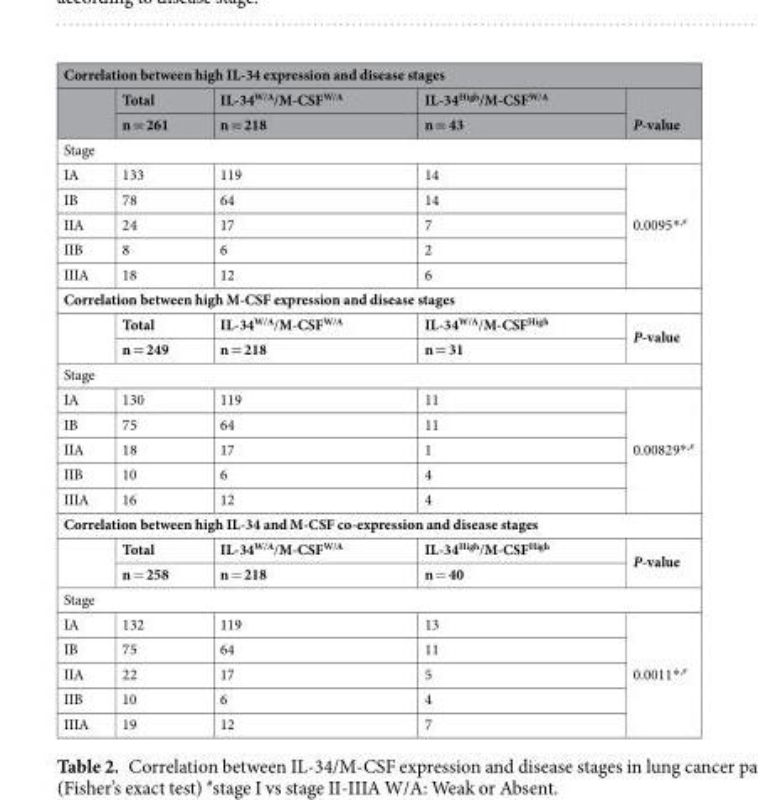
<table><thead><tr><td colspan="5">Correlation between high IL-34 expression and disease stages</td></tr><tr><td rowspan="2"></td><td rowspan="2">Total n = 261</td><td rowspan="2">IL-34W/A/M-CSFW/A n = 218</td><td rowspan="2">IL-34<sup>High</sup>/M-CSF<sup>W/A</sup> n = 43</td><td rowspan="2">P-value</td></tr><tr></tr></thead><tbody><tr><td colspan="5">Stage</td></tr><tr><td>IA</td><td>133</td><td>119</td><td>14</td><td rowspan="5">0.0095*<sup>,#</sup></td></tr><tr><td>IB</td><td>78</td><td>64</td><td>14</td></tr><tr><td>IIA</td><td>24</td><td>17</td><td>7</td></tr><tr><td>IIB</td><td>8</td><td>6</td><td>2</td></tr><tr><td>IIIA</td><td>18</td><td>12</td><td>6</td></tr><tr><td colspan="5">Correlation between high M-CSF expression and disease stages</td></tr><tr><td rowspan="2"></td><td>Total</td><td>IL-34W/A/M-CSFW/A</td><td>IL-34<sup>W/A</sup>/M-CSF<sup>High</sup></td><td rowspan="2">P-value</td></tr><tr><td>n = 249</td><td>n = 218</td><td>n = 31</td></tr><tr><td colspan="5">Stage</td></tr><tr><td>IA</td><td>130</td><td>119</td><td>11</td><td rowspan="5">0.00829*<sup>,#</sup></td></tr><tr><td>IB</td><td>75</td><td>64</td><td>11</td></tr><tr><td>IIA</td><td>18</td><td>17</td><td>1</td></tr><tr><td>IIB</td><td>10</td><td>6</td><td>4</td></tr><tr><td>IIIA</td><td>16</td><td>12</td><td>4</td></tr><tr><td colspan="5">Correlation between high IL-34 and M-CSF co-expression and disease stages</td></tr><tr><td rowspan="2"></td><td>Total</td><td>IL-34W/A/M-CSFW/A</td><td>IL-34<sup>High</sup>/M-CSF<sup>High</sup></td><td rowspan="2">P-value</td></tr><tr><td>n = 258</td><td>n = 218</td><td>n = 40</td></tr><tr><td colspan="5">Stage</td></tr><tr><td>IA</td><td>132</td><td>119</td><td>13</td><td rowspan="5">0.0011*<sup>,#</sup></td></tr><tr><td>IB</td><td>75</td><td>64</td><td>11</td></tr><tr><td>IIA</td><td>22</td><td>17</td><td>5</td></tr><tr><td>IIB</td><td>10</td><td>6</td><td>4</td></tr><tr><td>IIIA</td><td>19</td><td>12</td><td>7</td></tr></tbody></table>